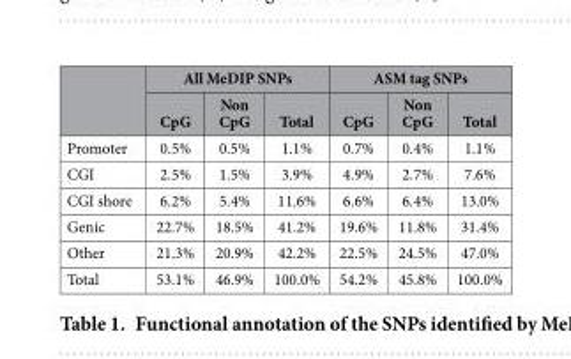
<table><thead><tr><td rowspan="2"></td><td colspan="3">All MeDIP SNPs</td><td colspan="3">ASM tag SNPs</td></tr><tr><td>CpG</td><td>Non CpG</td><td>Total</td><td>CpG</td><td>Non CpG</td><td>Total</td></tr></thead><tbody><tr><td>Promoter</td><td>0.5%</td><td>0.5%</td><td>1.1%</td><td>0.7%</td><td>0.4%</td><td>1.1%</td></tr><tr><td>CGI</td><td>2.5%</td><td>1.5%</td><td>3.9%</td><td>4.9%</td><td>2.7%</td><td>7.6%</td></tr><tr><td>CGI shore</td><td>6.2%</td><td>5.4%</td><td>11.6%</td><td>6.6%</td><td>6.4%</td><td>13.0%</td></tr><tr><td>Genic</td><td>22.7%</td><td>18.5%</td><td>41.2%</td><td>19.6%</td><td>11.8%</td><td>31.4%</td></tr><tr><td>Other</td><td>21.3%</td><td>20.9%</td><td>42.2%</td><td>22.5%</td><td>24.5%</td><td>47.0%</td></tr><tr><td>Total</td><td>53.1%</td><td>46.9%</td><td>100.0%</td><td>54.2%</td><td>45.8%</td><td>100.0%</td></tr></tbody></table>